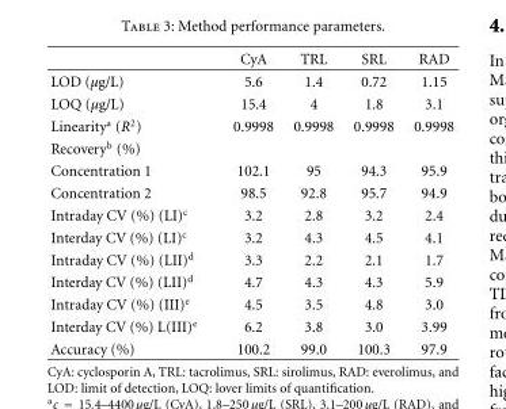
<table><thead><tr><td></td><td>CyA</td><td>TRL</td><td>SRL</td><td>RAD</td></tr></thead><tbody><tr><td>LOD (µg/L)</td><td>5.6</td><td>1.4</td><td>0.72</td><td>1.15</td></tr><tr><td>LOQ (µg/L)</td><td>15.4</td><td>4</td><td>1.8</td><td>3.1</td></tr><tr><td>Linearity<sup>a</sup> (R<sup>2</sup>)</td><td>0.9998</td><td>0.9998</td><td>0.9998</td><td>0.9998</td></tr><tr><td colspan="5">Recovery<sup>b</sup> (%)</td></tr><tr><td>Concentration 1</td><td>102.1</td><td>95</td><td>94.3</td><td>95.9</td></tr><tr><td>Concentration 2</td><td>98.5</td><td>92.8</td><td>95.7</td><td>94.9</td></tr><tr><td>Intraday CV (%) (LI)<sup>c</sup></td><td>3.2</td><td>2.8</td><td>3.2</td><td>2.4</td></tr><tr><td>Interday CV (%) (LI)<sup>c</sup></td><td>3.2</td><td>4.3</td><td>4.5</td><td>4.1</td></tr><tr><td>Intraday CV (%) (LII)<sup>d</sup></td><td>3.3</td><td>2.2</td><td>2.1</td><td>1.7</td></tr><tr><td>Interday CV (%) (LII)<sup>d</sup></td><td>4.7</td><td>4.3</td><td>4.3</td><td>5.9</td></tr><tr><td>Intraday CV (%) (III)<sup>e</sup></td><td>4.5</td><td>3.5</td><td>4.8</td><td>3.0</td></tr><tr><td>Interday CV (%) L(III)<sup>e</sup></td><td>6.2</td><td>3.8</td><td>3.0</td><td>3.99</td></tr><tr><td>Accuracy (%)</td><td>100.2</td><td>99.0</td><td>100.3</td><td>97.9</td></tr></tbody></table>